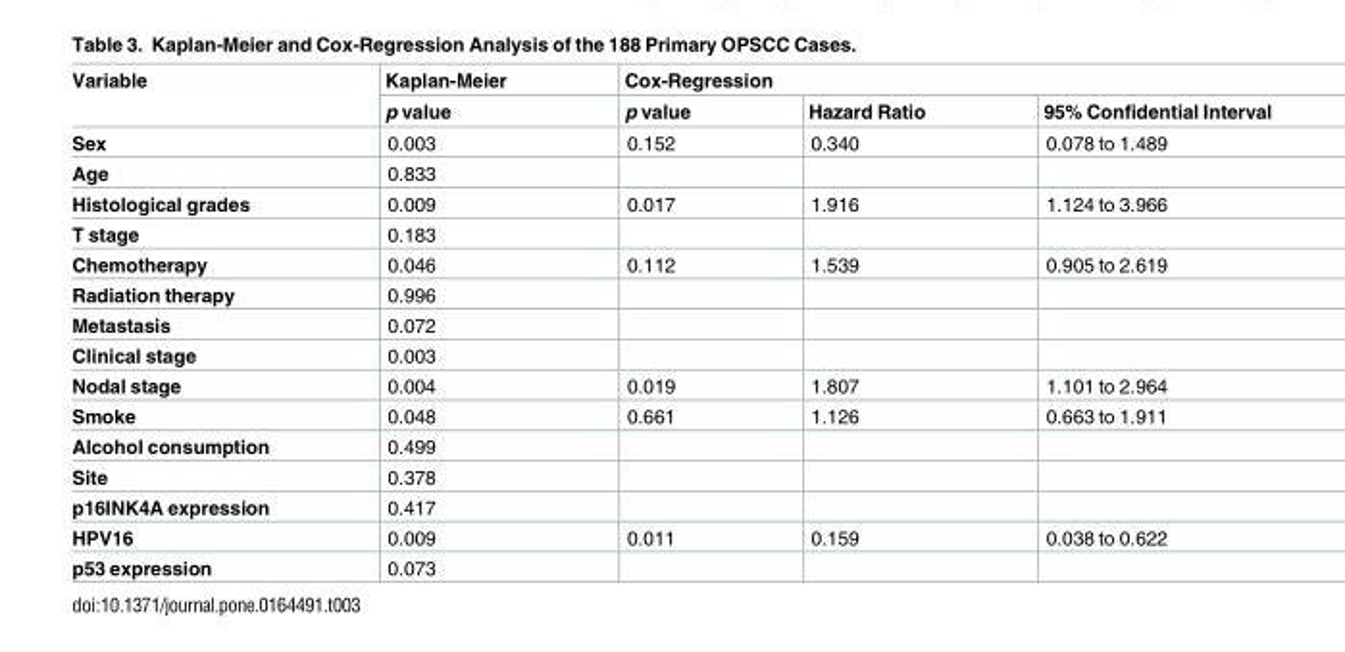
<table><thead><tr><td rowspan="2">Variable</td><td rowspan="2">Kaplan-Meier p value</td><td colspan="3">Cox-Regression</td></tr><tr><td>p value</td><td>Hazard Ratio</td><td>95% Confidential Interval</td></tr></thead><tbody><tr><td>Sex</td><td>0.003</td><td>0.152</td><td>0.340</td><td>0.078 to 1.489</td></tr><tr><td>Age</td><td>0.833</td><td></td><td></td><td></td></tr><tr><td>Histological grades</td><td>0.009</td><td>0.017</td><td>1.916</td><td>1.124 to 3.966</td></tr><tr><td>T stage</td><td>0.183</td><td></td><td></td><td></td></tr><tr><td>Chemotherapy</td><td>0.046</td><td>0.112</td><td>1.539</td><td>0.905 to 2.619</td></tr><tr><td>Radiation therapy</td><td>0.996</td><td></td><td></td><td></td></tr><tr><td>Metastasis</td><td>0.072</td><td></td><td></td><td></td></tr><tr><td>Clinical stage</td><td>0.003</td><td></td><td></td><td></td></tr><tr><td>Nodal stage</td><td>0.004</td><td>0.019</td><td>1.807</td><td>1.101 to 2.964</td></tr><tr><td>Smoke</td><td>0.048</td><td>0.661</td><td>1.126</td><td>0.663 to 1.911</td></tr><tr><td>Alcohol consumption</td><td>0.499</td><td></td><td></td><td></td></tr><tr><td>Site</td><td>0.378</td><td></td><td></td><td></td></tr><tr><td>p16INK4A expression</td><td>0.417</td><td></td><td></td><td></td></tr><tr><td>HPV16</td><td>0.009</td><td>0.011</td><td>0.159</td><td>0.038 to 0.622</td></tr><tr><td>p53 expression</td><td>0.073</td><td></td><td></td><td></td></tr></tbody></table>